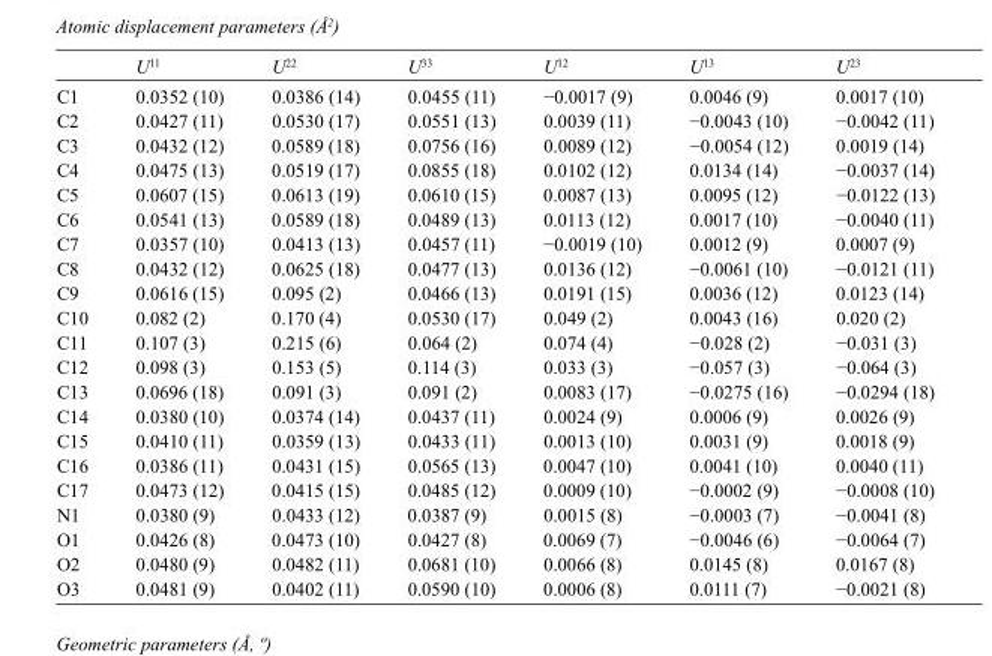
<table><thead><tr><td></td><td>U<sup>11</sup></td><td>U<sup>22</sup></td><td>U<sup>33</sup></td><td>U<sup>12</sup></td><td>U<sup>13</sup></td><td>U<sup>23</sup></td></tr></thead><tbody><tr><td>C1</td><td>0.0352 (10)</td><td>0.0386 (14)</td><td>0.0455 (11)</td><td>−0.0017 (9)</td><td>0.0046 (9)</td><td>0.0017 (10)</td></tr><tr><td>C2</td><td>0.0427 (11)</td><td>0.0530 (17)</td><td>0.0551 (13)</td><td>0.0039 (11)</td><td>−0.0043 (10)</td><td>−0.0042 (11)</td></tr><tr><td>C3</td><td>0.0432 (12)</td><td>0.0589 (18)</td><td>0.0756 (16)</td><td>0.0089 (12)</td><td>−0.0054 (12)</td><td>0.0019 (14)</td></tr><tr><td>C4</td><td>0.0475 (13)</td><td>0.0519 (17)</td><td>0.0855 (18)</td><td>0.0102 (12)</td><td>0.0134 (14)</td><td>−0.0037 (14)</td></tr><tr><td>C5</td><td>0.0607 (15)</td><td>0.0613 (19)</td><td>0.0610 (15)</td><td>0.0087 (13)</td><td>0.0095 (12)</td><td>−0.0122 (13)</td></tr><tr><td>C6</td><td>0.0541 (13)</td><td>0.0589 (18)</td><td>0.0489 (13)</td><td>0.0113 (12)</td><td>0.0017 (10)</td><td>−0.0040 (11)</td></tr><tr><td>C7</td><td>0.0357 (10)</td><td>0.0413 (13)</td><td>0.0457 (11)</td><td>−0.0019 (10)</td><td>0.0012 (9)</td><td>0.0007 (9)</td></tr><tr><td>C8</td><td>0.0432 (12)</td><td>0.0625 (18)</td><td>0.0477 (13)</td><td>0.0136 (12)</td><td>−0.0061 (10)</td><td>−0.0121 (11)</td></tr><tr><td>C9</td><td>0.0616 (15)</td><td>0.095 (2)</td><td>0.0466 (13)</td><td>0.0191 (15)</td><td>0.0036 (12)</td><td>0.0123 (14)</td></tr><tr><td>C10</td><td>0.082 (2)</td><td>0.170 (4)</td><td>0.0530 (17)</td><td>0.049 (2)</td><td>0.0043 (16)</td><td>0.020 (2)</td></tr><tr><td>C11</td><td>0.107 (3)</td><td>0.215 (6)</td><td>0.064 (2)</td><td>0.074 (4)</td><td>−0.028 (2)</td><td>−0.031 (3)</td></tr><tr><td>C12</td><td>0.098 (3)</td><td>0.153 (5)</td><td>0.114 (3)</td><td>0.033 (3)</td><td>−0.057 (3)</td><td>−0.064 (3)</td></tr><tr><td>C13</td><td>0.0696 (18)</td><td>0.091 (3)</td><td>0.091 (2)</td><td>0.0083 (17)</td><td>−0.0275 (16)</td><td>−0.0294 (18)</td></tr><tr><td>C14</td><td>0.0380 (10)</td><td>0.0374 (14)</td><td>0.0437 (11)</td><td>0.0024 (9)</td><td>0.0006 (9)</td><td>0.0026 (9)</td></tr><tr><td>C15</td><td>0.0410 (11)</td><td>0.0359 (13)</td><td>0.0433 (11)</td><td>0.0013 (10)</td><td>0.0031 (9)</td><td>0.0018 (9)</td></tr><tr><td>C16</td><td>0.0386 (11)</td><td>0.0431 (15)</td><td>0.0565 (13)</td><td>0.0047 (10)</td><td>0.0041 (10)</td><td>0.0040 (11)</td></tr><tr><td>C17</td><td>0.0473 (12)</td><td>0.0415 (15)</td><td>0.0485 (12)</td><td>0.0009 (10)</td><td>−0.0002 (9)</td><td>−0.0008 (10)</td></tr><tr><td>N1</td><td>0.0380 (9)</td><td>0.0433 (12)</td><td>0.0387 (9)</td><td>0.0015 (8)</td><td>−0.0003 (7)</td><td>−0.0041 (8)</td></tr><tr><td>O1</td><td>0.0426 (8)</td><td>0.0473 (10)</td><td>0.0427 (8)</td><td>0.0069 (7)</td><td>−0.0046 (6)</td><td>−0.0064 (7)</td></tr><tr><td>O2</td><td>0.0480 (9)</td><td>0.0482 (11)</td><td>0.0681 (10)</td><td>0.0066 (8)</td><td>0.0145 (8)</td><td>0.0167 (8)</td></tr><tr><td>O3</td><td>0.0481 (9)</td><td>0.0402 (11)</td><td>0.0590 (10)</td><td>0.0006 (8)</td><td>0.0111 (7)</td><td>−0.0021 (8)</td></tr></tbody></table>